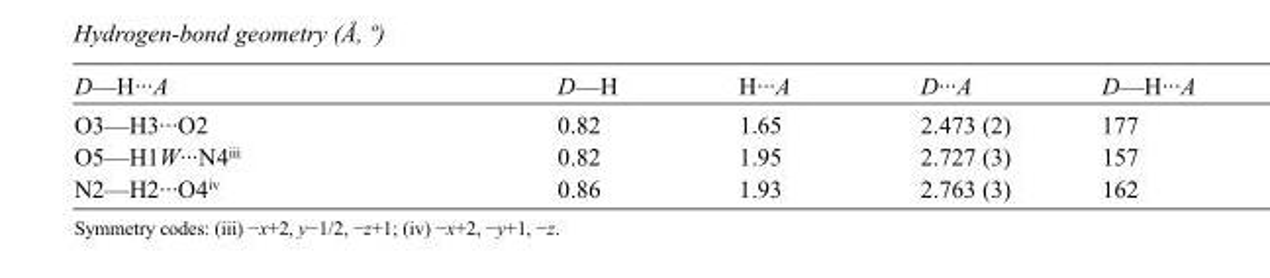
<table><tbody><tr><td>D—H···A</td><td>D—H</td><td>H···A</td><td>D···A</td><td>D—H···A</td></tr><tr><td>O3—H3···O2</td><td>0.82</td><td>1.65</td><td>2.473 (2)</td><td>177</td></tr><tr><td>O5—H1W···N4<sup>iii</sup></td><td>0.82</td><td>1.95</td><td>2.727 (3)</td><td>157</td></tr><tr><td>N2—H2···O4<sup>iv</sup></td><td>0.86</td><td>1.93</td><td>2.763 (3)</td><td>162</td></tr></tbody></table>